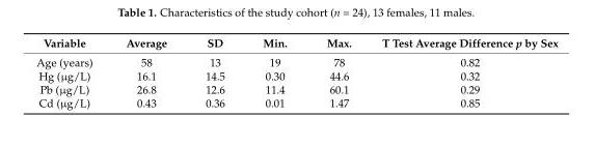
<table><thead><tr><td>Variable</td><td>Average</td><td>SD</td><td>Min.</td><td>Max.</td><td>T Test Average Difference p by Sex</td></tr></thead><tbody><tr><td>Age (years)</td><td>58</td><td>13</td><td>19</td><td>78</td><td>0.82</td></tr><tr><td>Hg (µg/L)</td><td>16.1</td><td>14.5</td><td>0.30</td><td>44.6</td><td>0.32</td></tr><tr><td>Pb (µg/L)</td><td>26.8</td><td>12.6</td><td>11.4</td><td>60.1</td><td>0.29</td></tr><tr><td>Cd (µg/L)</td><td>0.43</td><td>0.36</td><td>0.01</td><td>1.47</td><td>0.85</td></tr></tbody></table>